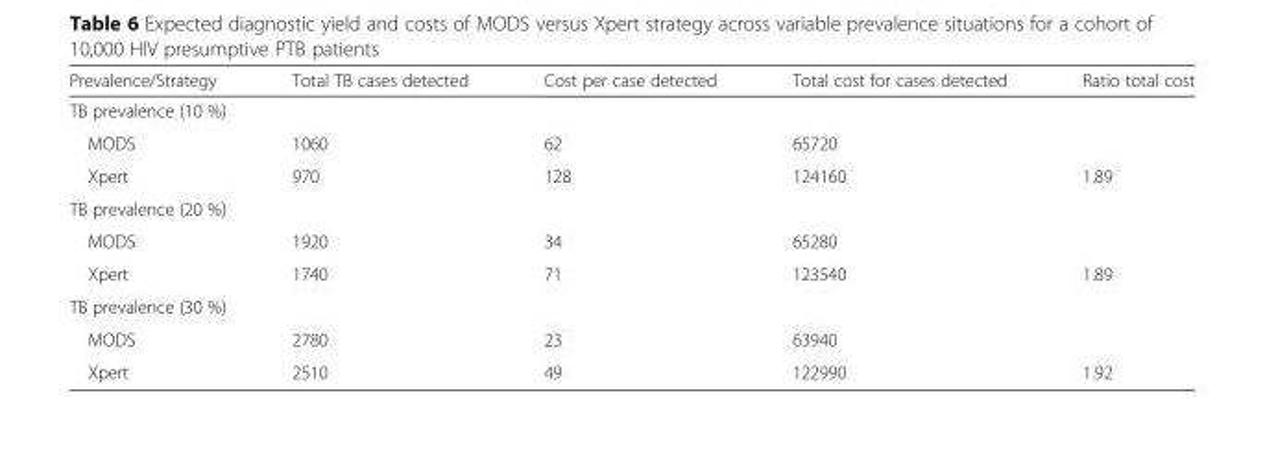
<table><thead><tr><td>Prevalence/Strategy</td><td>Total TB cases detected</td><td>Cost per case detected</td><td>Total cost for cases detected</td><td>Ratio total cost</td></tr></thead><tbody><tr><td colspan="5">TB prevalence (10 %)</td></tr><tr><td>MODS</td><td>1060</td><td>62</td><td>65720</td><td></td></tr><tr><td>Xpert</td><td>970</td><td>128</td><td>124160</td><td>1.89</td></tr><tr><td colspan="5">TB prevalence (20 %)</td></tr><tr><td>MODS</td><td>1920</td><td>34</td><td>65280</td><td></td></tr><tr><td>Xpert</td><td>1740</td><td>71</td><td>123540</td><td>1.89</td></tr><tr><td colspan="5">TB prevalence (30 %)</td></tr><tr><td>MODS</td><td>2780</td><td>23</td><td>63940</td><td></td></tr><tr><td>Xpert</td><td>2510</td><td>49</td><td>122990</td><td>1.92</td></tr></tbody></table>